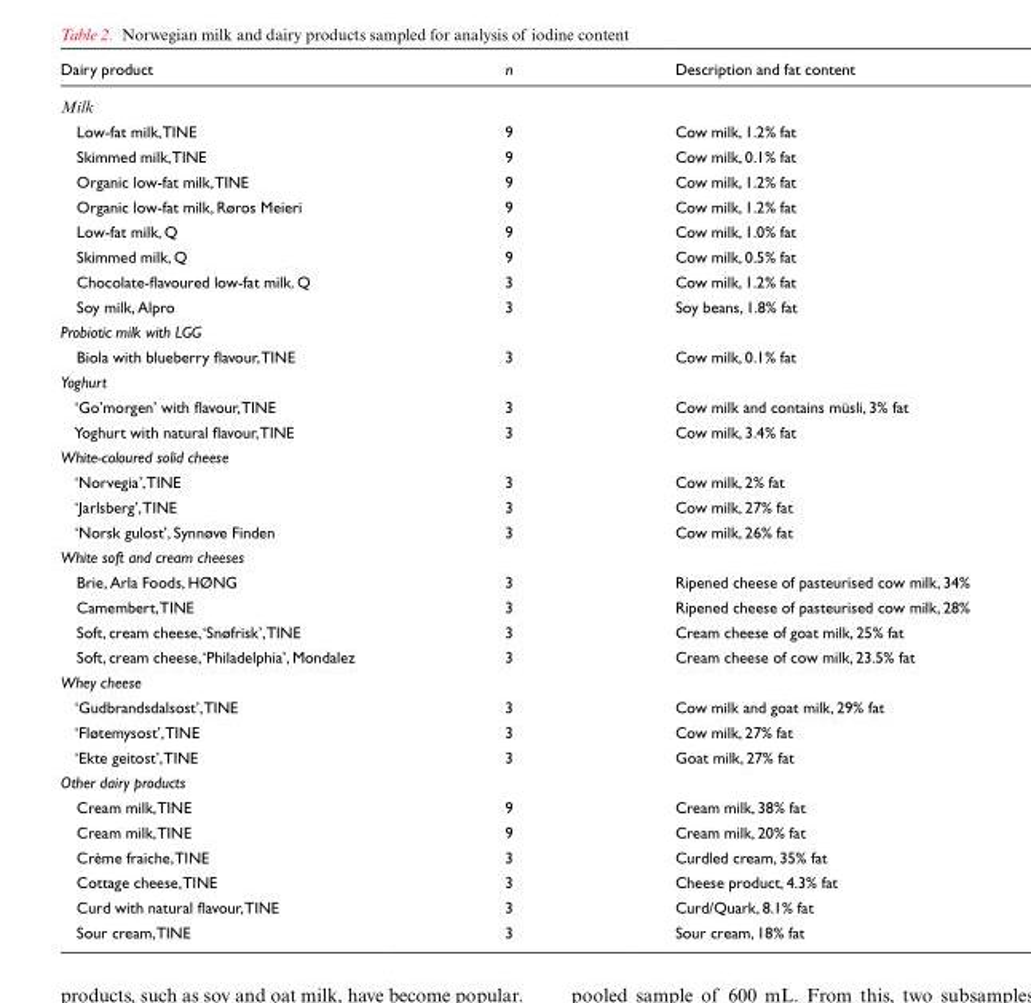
<table><thead><tr><td>Dairy product</td><td>n</td><td>Description and fat content</td></tr></thead><tbody><tr><td colspan="3">Milk</td></tr><tr><td>Low-fat milk, TINE</td><td>9</td><td>Cow milk, 1.2% fat</td></tr><tr><td>Skimmed milk, TINE</td><td>9</td><td>Cow milk, 0.1% fat</td></tr><tr><td>Organic low-fat milk, TINE</td><td>9</td><td>Cow milk, 1.2% fat</td></tr><tr><td>Organic low-fat milk, Røros Meieri</td><td>9</td><td>Cow milk, 1.2% fat</td></tr><tr><td>Low-fat milk, Q</td><td>9</td><td>Cow milk, 1.0% fat</td></tr><tr><td>Skimmed milk, Q</td><td>9</td><td>Cow milk, 0.5% fat</td></tr><tr><td>Chocolate-flavoured low-fat milk. Q</td><td>3</td><td>Cow milk, 1.2% fat</td></tr><tr><td>Soy milk, Alpro</td><td>3</td><td>Soy beans, 1.8% fat</td></tr><tr><td colspan="3">Probiotic milk with LGG</td></tr><tr><td>Biola with blueberry flavour, TINE</td><td>3</td><td>Cow milk, 0.1% fat</td></tr><tr><td colspan="3">Yoghurt</td></tr><tr><td>‘Go’morgen’ with flavour, TINE</td><td>3</td><td>Cow milk and contains müsli, 3% fat</td></tr><tr><td>Yoghurt with natural flavour, TINE</td><td>3</td><td>Cow milk, 3.4% fat</td></tr><tr><td colspan="3">White-coloured solid cheese</td></tr><tr><td>‘Norvegia’, TINE</td><td>3</td><td>Cow milk, 2% fat</td></tr><tr><td>‘Jarlsberg’, TINE</td><td>3</td><td>Cow milk, 27% fat</td></tr><tr><td>‘Norsk gulost’, Synnøve Finden</td><td>3</td><td>Cow milk, 26% fat</td></tr><tr><td colspan="3">White soft and cream cheeses</td></tr><tr><td>Brie, Arla Foods, HØNG</td><td>3</td><td>Ripened cheese of pasteurised cow milk, 34%</td></tr><tr><td>Camembert, TINE</td><td>3</td><td>Ripened cheese of pasteurised cow milk, 28%</td></tr><tr><td>Soft, cream cheese, ‘Snøfrisk’, TINE</td><td>3</td><td>Cream cheese of goat milk, 25% fat</td></tr><tr><td>Soft, cream cheese, ‘Philadelphia’, Mondalez</td><td>3</td><td>Cream cheese of cow milk, 23.5% fat</td></tr><tr><td colspan="3">Whey cheese</td></tr><tr><td>‘Gudbrandsdalsost’, TINE</td><td>3</td><td>Cow milk and goat milk, 29% fat</td></tr><tr><td>‘Fløtemysost’, TINE</td><td>3</td><td>Cow milk, 27% fat</td></tr><tr><td>‘Ekte geitost’, TINE</td><td>3</td><td>Goat milk, 27% fat</td></tr><tr><td colspan="3">Other dairy products</td></tr><tr><td>Cream milk, TINE</td><td>9</td><td>Cream milk, 38% fat</td></tr><tr><td>Cream milk, TINE</td><td>9</td><td>Cream milk, 20% fat</td></tr><tr><td>Crème fraiche, TINE</td><td>3</td><td>Curdled cream, 35% fat</td></tr><tr><td>Cottage cheese, TINE</td><td>3</td><td>Cheese product, 4.3% fat</td></tr><tr><td>Curd with natural flavour, TINE</td><td>3</td><td>Curd/Quark, 8.1% fat</td></tr><tr><td>Sour cream, TINE</td><td>3</td><td>Sour cream, 18% fat</td></tr></tbody></table>